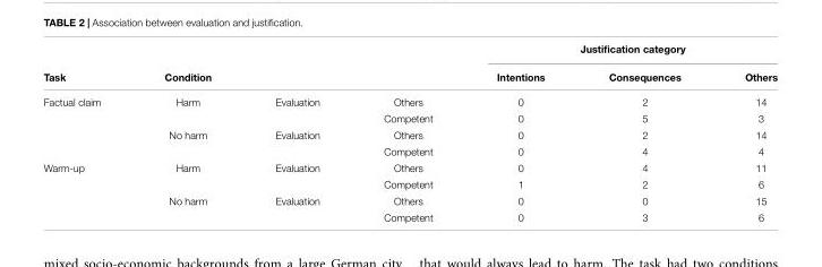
<table><thead><tr><td rowspan="2">Task</td><td rowspan="2">Condition</td><td rowspan="2"></td><td rowspan="2"></td><td colspan="3">Justification category</td></tr><tr><td>Intentions</td><td>Consequences</td><td>Others</td></tr></thead><tbody><tr><td rowspan="4">Factual claim</td><td>Harm</td><td>Evaluation</td><td>Others</td><td>0</td><td>2</td><td>14</td></tr><tr><td></td><td></td><td>Competent</td><td>0</td><td>5</td><td>3</td></tr><tr><td>No harm</td><td>Evaluation</td><td>Others</td><td>0</td><td>2</td><td>14</td></tr><tr><td></td><td></td><td>Competent</td><td>0</td><td>4</td><td>4</td></tr><tr><td rowspan="4">Warm-up</td><td>Harm</td><td>Evaluation</td><td>Others</td><td>0</td><td>4</td><td>11</td></tr><tr><td></td><td></td><td>Competent</td><td>1</td><td>2</td><td>6</td></tr><tr><td>No harm</td><td>Evaluation</td><td>Others</td><td>0</td><td>0</td><td>15</td></tr><tr><td></td><td></td><td>Competent</td><td>0</td><td>3</td><td>6</td></tr></tbody></table>